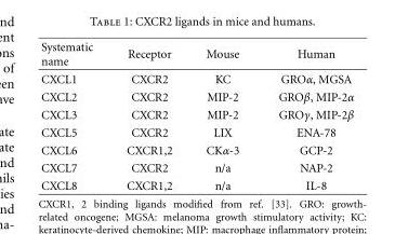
<table><thead><tr><td>Systematic name</td><td>Receptor</td><td>Mouse</td><td>Human</td></tr></thead><tbody><tr><td>CXCL1</td><td>CXCR2</td><td>KC</td><td>GROα, MGSA</td></tr><tr><td>CXCL2</td><td>CXCR2</td><td>MIP-2</td><td>GROβ, MIP-2α</td></tr><tr><td>CXCL3</td><td>CXCR2</td><td>MIP-2</td><td>GROγ, MIP-2β</td></tr><tr><td>CXCL5</td><td>CXCR2</td><td>LIX</td><td>ENA-78</td></tr><tr><td>CXCL6</td><td>CXCR1,2</td><td>CKα-3</td><td>GCP-2</td></tr><tr><td>CXCL7</td><td>CXCR2</td><td>n/a</td><td>NAP-2</td></tr><tr><td>CXCL8</td><td>CXCR1,2</td><td>n/a</td><td>IL-8</td></tr></tbody></table>